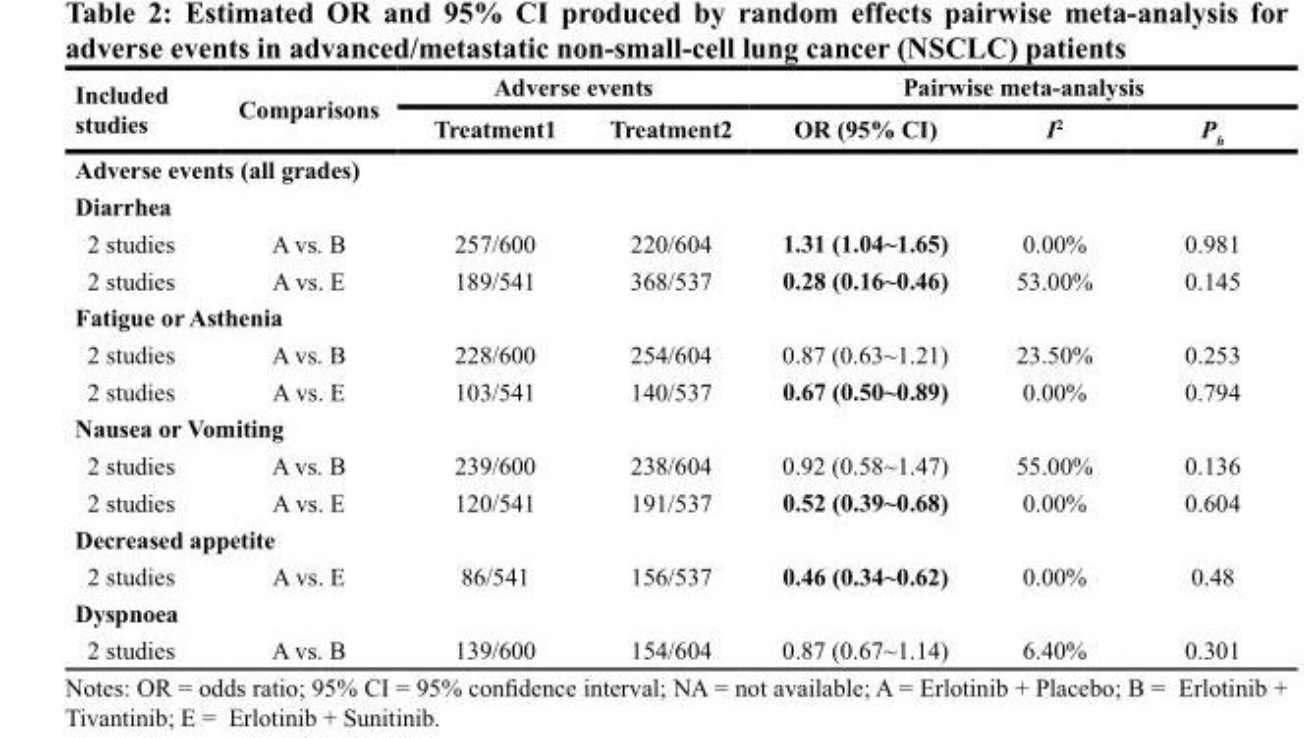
<table><thead><tr><td rowspan="2">Included studies</td><td rowspan="2">Comparisons</td><td colspan="2">Adverse events</td><td colspan="3">Pairwise meta-analysis</td></tr><tr><td>Treatment1</td><td>Treatment2</td><td>OR (95% CI)</td><td>I<sup>2</sup></td><td>P<sub>h</sub></td></tr></thead><tbody><tr><td colspan="7">Adverse events (all grades)</td></tr><tr><td colspan="7">Diarrhea</td></tr><tr><td>2 studies</td><td>A vs. B</td><td>257/600</td><td>220/604</td><td>1.31 (1.04~1.65)</td><td>0.00%</td><td>0.981</td></tr><tr><td>2 studies</td><td>A vs. E</td><td>189/541</td><td>368/537</td><td>0.28 (0.16~0.46)</td><td>53.00%</td><td>0.145</td></tr><tr><td colspan="7">Fatigue or Asthenia</td></tr><tr><td>2 studies</td><td>A vs. B</td><td>228/600</td><td>254/604</td><td>0.87 (0.63~1.21)</td><td>23.50%</td><td>0.253</td></tr><tr><td>2 studies</td><td>A vs. E</td><td>103/541</td><td>140/537</td><td>0.67 (0.50~0.89)</td><td>0.00%</td><td>0.794</td></tr><tr><td colspan="7">Nausea or Vomiting</td></tr><tr><td>2 studies</td><td>A vs. B</td><td>239/600</td><td>238/604</td><td>0.92 (0.58~1.47)</td><td>55.00%</td><td>0.136</td></tr><tr><td>2 studies</td><td>A vs. E</td><td>120/541</td><td>191/537</td><td>0.52 (0.39~0.68)</td><td>0.00%</td><td>0.604</td></tr><tr><td colspan="7">Decreased appetite</td></tr><tr><td>2 studies</td><td>A vs. E</td><td>86/541</td><td>156/537</td><td>0.46 (0.34~0.62)</td><td>0.00%</td><td>0.48</td></tr><tr><td colspan="7">Dyspnoea</td></tr><tr><td>2 studies</td><td>A vs. B</td><td>139/600</td><td>154/604</td><td>0.87 (0.67~1.14)</td><td>6.40%</td><td>0.301</td></tr></tbody></table>